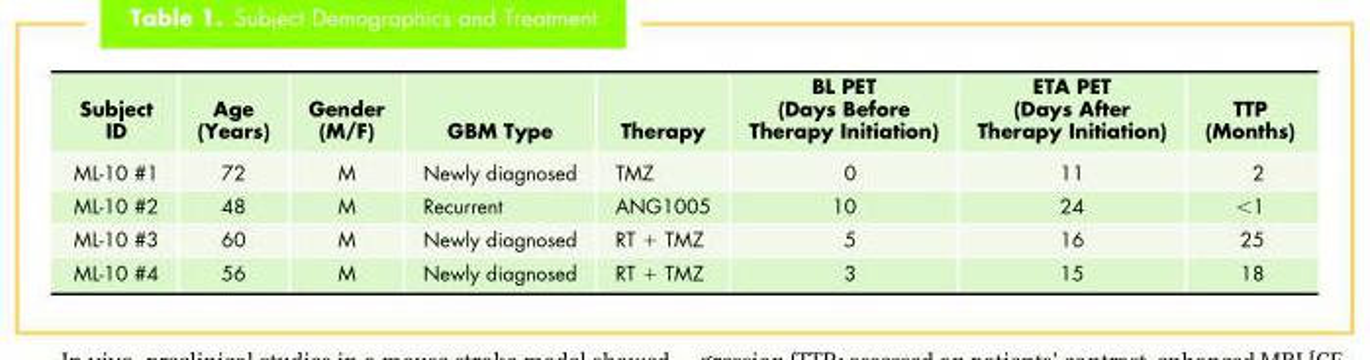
<table><thead><tr><td>Subject ID</td><td>Age (Years)</td><td>Gender (M/F)</td><td>GBM Type</td><td>Therapy</td><td>BL PET (Days Before Therapy Initiation)</td><td>ETA PET (Days After Therapy Initiation)</td><td>TTP (Months)</td></tr></thead><tbody><tr><td>ML-10 #1</td><td>72</td><td>M</td><td>Newly diagnosed</td><td>TMZ</td><td>0</td><td>11</td><td>2</td></tr><tr><td>ML-10 #2</td><td>48</td><td>M</td><td>Recurrent</td><td>ANG1005</td><td>10</td><td>24</td><td>&lt;1</td></tr><tr><td>ML-10 #3</td><td>60</td><td>M</td><td>Newly diagnosed</td><td>RT + TMZ</td><td>5</td><td>16</td><td>25</td></tr><tr><td>ML-10 #4</td><td>56</td><td>M</td><td>Newly diagnosed</td><td>RT + TMZ</td><td>3</td><td>15</td><td>18</td></tr></tbody></table>